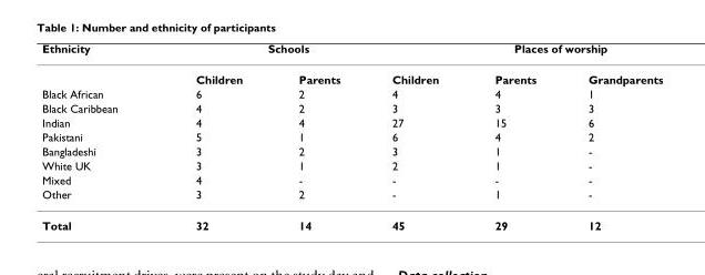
<table><thead><tr><td rowspan="2">Ethnicity</td><td colspan="2">Schools</td><td colspan="3">Places of worship</td></tr><tr><td>Children</td><td>Parents</td><td>Children</td><td>Parents</td><td>Grandparents</td></tr></thead><tbody><tr><td>Black African</td><td>6</td><td>2</td><td>4</td><td>4</td><td>1</td></tr><tr><td>Black Caribbean</td><td>4</td><td>2</td><td>3</td><td>3</td><td>3</td></tr><tr><td>Indian</td><td>4</td><td>4</td><td>27</td><td>15</td><td>6</td></tr><tr><td>Pakistani</td><td>5</td><td>1</td><td>6</td><td>4</td><td>2</td></tr><tr><td>Bangladeshi</td><td>3</td><td>2</td><td>3</td><td>1</td><td>-</td></tr><tr><td>White UK</td><td>3</td><td>1</td><td>2</td><td>1</td><td>-</td></tr><tr><td>Mixed</td><td>4</td><td>-</td><td>-</td><td>-</td><td>-</td></tr><tr><td>Other</td><td>3</td><td>2</td><td>-</td><td>1</td><td>-</td></tr><tr><td>Total</td><td>32</td><td>14</td><td>45</td><td>29</td><td>12</td></tr></tbody></table>